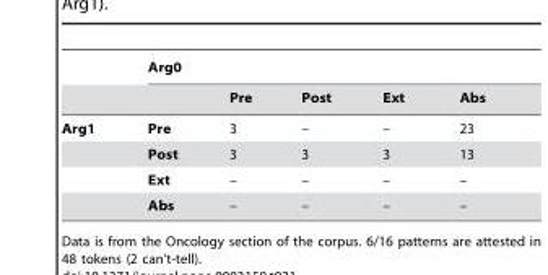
<table><thead><tr><td rowspan="2"></td><td colspan="5">Arg0</td></tr><tr><td></td><td>Pre</td><td>Post</td><td>Ext</td><td>Abs</td></tr></thead><tbody><tr><td rowspan="4">Arg1</td><td>Pre</td><td>3</td><td>–</td><td>–</td><td>23</td></tr><tr><td>Post</td><td>3</td><td>3</td><td>3</td><td>13</td></tr><tr><td>Ext</td><td>–</td><td>–</td><td>–</td><td>–</td></tr><tr><td>Abs</td><td>–</td><td>–</td><td>–</td><td>–</td></tr></tbody></table>